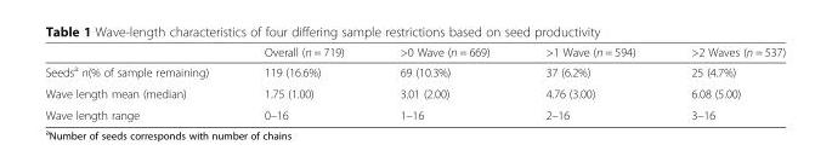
<table><thead><tr><td></td><td>Overall (n = 719)</td><td>&gt;0 Wave (n = 669)</td><td>&gt;1 Wave (n = 594)</td><td>&gt;2 Waves (n = 537)</td></tr></thead><tbody><tr><td>Seeds<sup>a</sup> n(% of sample remaining)</td><td>119 (16.6%)</td><td>69 (10.3%)</td><td>37 (6.2%)</td><td>25 (4.7%)</td></tr><tr><td>Wave length mean (median)</td><td>1.75 (1.00)</td><td>3.01 (2.00)</td><td>4.76 (3.00)</td><td>6.08 (5.00)</td></tr><tr><td>Wave length range</td><td>0–16</td><td>1–16</td><td>2–16</td><td>3–16</td></tr></tbody></table>